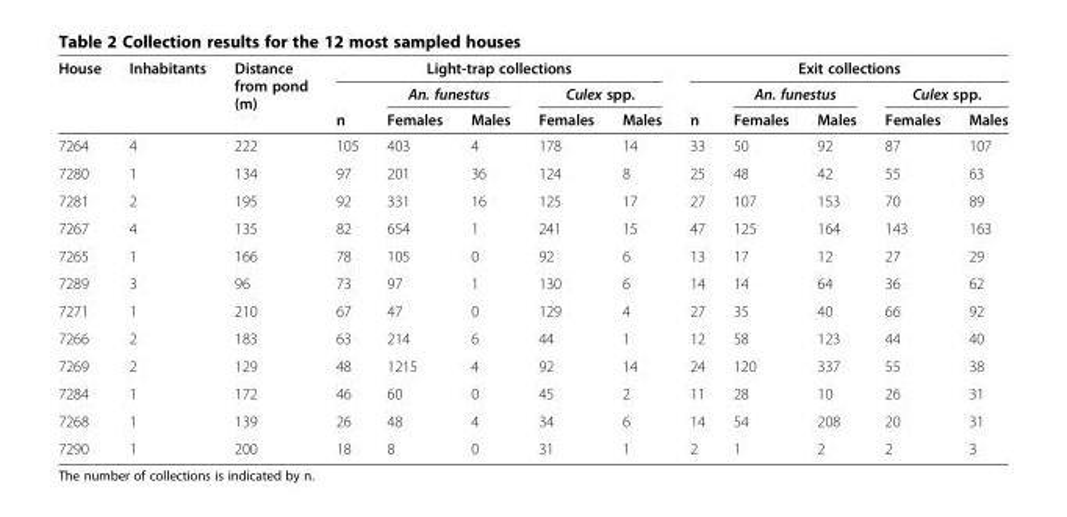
<table><thead><tr><td rowspan="3">House</td><td rowspan="3">Inhabitants</td><td rowspan="3">Distance from pond (m)</td><td colspan="5">Light-trap collections</td><td colspan="5">Exit collections</td></tr><tr><td rowspan="2">n</td><td colspan="2">An. funestus</td><td colspan="2">Culex spp.</td><td rowspan="2">n</td><td colspan="2">An. funestus</td><td colspan="2">Culex spp.</td></tr><tr><td>Females</td><td>Males</td><td>Females</td><td>Males</td><td>Females</td><td>Males</td><td>Females</td><td>Males</td></tr></thead><tbody><tr><td>7264</td><td>4</td><td>222</td><td>105</td><td>403</td><td>4</td><td>178</td><td>14</td><td>33</td><td>50</td><td>92</td><td>87</td><td>107</td></tr><tr><td>7280</td><td>1</td><td>134</td><td>97</td><td>201</td><td>36</td><td>124</td><td>8</td><td>25</td><td>48</td><td>42</td><td>55</td><td>63</td></tr><tr><td>7281</td><td>2</td><td>195</td><td>92</td><td>331</td><td>16</td><td>125</td><td>17</td><td>27</td><td>107</td><td>153</td><td>70</td><td>89</td></tr><tr><td>7267</td><td>4</td><td>135</td><td>82</td><td>654</td><td>1</td><td>241</td><td>15</td><td>47</td><td>125</td><td>164</td><td>143</td><td>163</td></tr><tr><td>7265</td><td>1</td><td>166</td><td>78</td><td>105</td><td>0</td><td>92</td><td>6</td><td>13</td><td>17</td><td>12</td><td>27</td><td>29</td></tr><tr><td>7289</td><td>3</td><td>96</td><td>73</td><td>97</td><td>1</td><td>130</td><td>6</td><td>14</td><td>14</td><td>64</td><td>36</td><td>62</td></tr><tr><td>7271</td><td>1</td><td>210</td><td>67</td><td>47</td><td>0</td><td>129</td><td>4</td><td>27</td><td>35</td><td>40</td><td>66</td><td>92</td></tr><tr><td>7266</td><td>2</td><td>183</td><td>63</td><td>214</td><td>6</td><td>44</td><td>1</td><td>12</td><td>58</td><td>123</td><td>44</td><td>40</td></tr><tr><td>7269</td><td>2</td><td>129</td><td>48</td><td>1215</td><td>4</td><td>92</td><td>14</td><td>24</td><td>120</td><td>337</td><td>55</td><td>38</td></tr><tr><td>7284</td><td>1</td><td>172</td><td>46</td><td>60</td><td>0</td><td>45</td><td>2</td><td>11</td><td>28</td><td>10</td><td>26</td><td>31</td></tr><tr><td>7268</td><td>1</td><td>139</td><td>26</td><td>48</td><td>4</td><td>34</td><td>6</td><td>14</td><td>54</td><td>208</td><td>20</td><td>31</td></tr><tr><td>7290</td><td>1</td><td>200</td><td>18</td><td>8</td><td>0</td><td>31</td><td>1</td><td>2</td><td>1</td><td>2</td><td>2</td><td>3</td></tr></tbody></table>